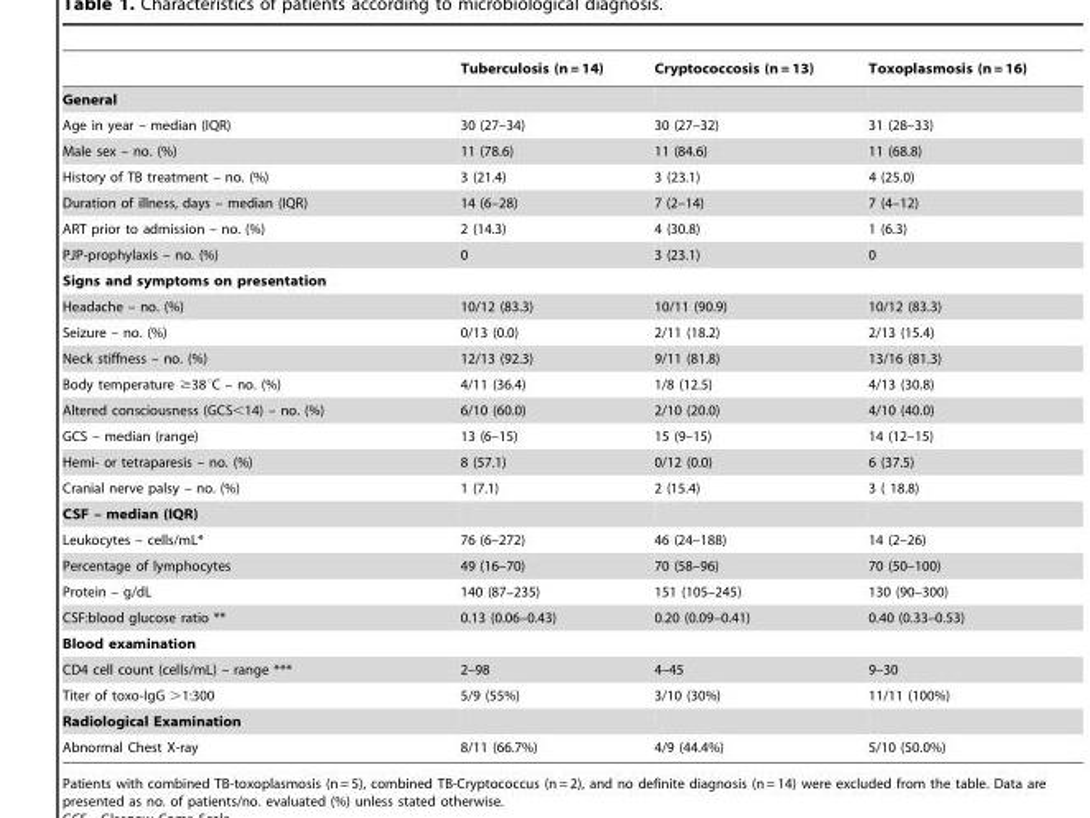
<table><thead><tr><td></td><td>Tuberculosis (n = 14)</td><td>Cryptococcosis (n = 13)</td><td>Toxoplasmosis (n = 16)</td></tr></thead><tbody><tr><td colspan="4">General</td></tr><tr><td>Age in year – median (IQR)</td><td>30 (27–34)</td><td>30 (27–32)</td><td>31 (28–33)</td></tr><tr><td>Male sex – no. (%)</td><td>11 (78.6)</td><td>11 (84.6)</td><td>11 (68.8)</td></tr><tr><td>History of TB treatment – no. (%)</td><td>3 (21.4)</td><td>3 (23.1)</td><td>4 (25.0)</td></tr><tr><td>Duration of illness, days – median (IQR)</td><td>14 (6–28)</td><td>7 (2–14)</td><td>7 (4–12)</td></tr><tr><td>ART prior to admission – no. (%)</td><td>2 (14.3)</td><td>4 (30.8)</td><td>1 (6.3)</td></tr><tr><td>PJP-prophylaxis – no. (%)</td><td>0</td><td>3 (23.1)</td><td>0</td></tr><tr><td colspan="4">Signs and symptoms on presentation</td></tr><tr><td>Headache – no. (%)</td><td>10/12 (83.3)</td><td>10/11 (90.9)</td><td>10/12 (83.3)</td></tr><tr><td>Seizure – no. (%)</td><td>0/13 (0.0)</td><td>2/11 (18.2)</td><td>2/13 (15.4)</td></tr><tr><td>Neck stiffness – no. (%)</td><td>12/13 (92.3)</td><td>9/11 (81.8)</td><td>13/16 (81.3)</td></tr><tr><td>Body temperature ≥38°C – no. (%)</td><td>4/11 (36.4)</td><td>1/8 (12.5)</td><td>4/13 (30.8)</td></tr><tr><td>Altered consciousness (GCS&lt;14) – no. (%)</td><td>6/10 (60.0)</td><td>2/10 (20.0)</td><td>4/10 (40.0)</td></tr><tr><td>GCS – median (range)</td><td>13 (6–15)</td><td>15 (9–15)</td><td>14 (12–15)</td></tr><tr><td>Hemi- or tetraparesis – no. (%)</td><td>8 (57.1)</td><td>0/12 (0.0)</td><td>6 (37.5)</td></tr><tr><td>Cranial nerve palsy – no. (%)</td><td>1 (7.1)</td><td>2 (15.4)</td><td>3 ( 18.8)</td></tr><tr><td colspan="4">CSF – median (IQR)</td></tr><tr><td>Leukocytes – cells/mL*</td><td>76 (6–272)</td><td>46 (24–188)</td><td>14 (2–26)</td></tr><tr><td>Percentage of lymphocytes</td><td>49 (16–70)</td><td>70 (58–96)</td><td>70 (50–100)</td></tr><tr><td>Protein – g/dL</td><td>140 (87–235)</td><td>151 (105–245)</td><td>130 (90–300)</td></tr><tr><td>CSF:blood glucose ratio **</td><td>0.13 (0.06–0.43)</td><td>0.20 (0.09–0.41)</td><td>0.40 (0.33–0.53)</td></tr><tr><td colspan="4">Blood examination</td></tr><tr><td>CD4 cell count (cells/mL) – range ***</td><td>2–98</td><td>4–45</td><td>9–30</td></tr><tr><td>Titer of toxo-IgG &gt;1:300</td><td>5/9 (55%)</td><td>3/10 (30%)</td><td>11/11 (100%)</td></tr><tr><td colspan="4">Radiological Examination</td></tr><tr><td>Abnormal Chest X-ray</td><td>8/11 (66.7%)</td><td>4/9 (44.4%)</td><td>5/10 (50.0%)</td></tr></tbody></table>